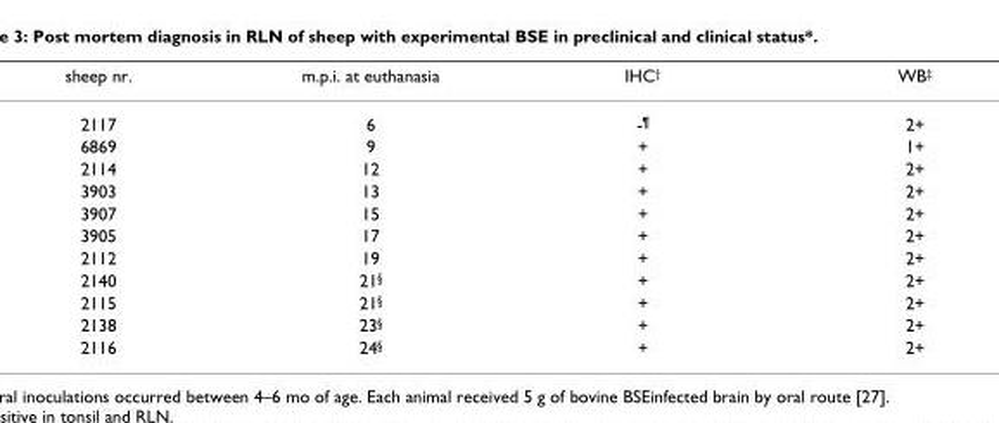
<table><thead><tr><td>sheep nr.</td><td>m.p.i. at euthanasia</td><td>IHC†</td><td>WB‡</td></tr></thead><tbody><tr><td>2117</td><td>6</td><td>-¶</td><td>2+</td></tr><tr><td>6869</td><td>9</td><td>+</td><td>1+</td></tr><tr><td>2114</td><td>12</td><td>+</td><td>2+</td></tr><tr><td>3903</td><td>13</td><td>+</td><td>2+</td></tr><tr><td>3907</td><td>15</td><td>+</td><td>2+</td></tr><tr><td>3905</td><td>17</td><td>+</td><td>2+</td></tr><tr><td>2112</td><td>19</td><td>+</td><td>2+</td></tr><tr><td>2140</td><td>21§</td><td>+</td><td>2+</td></tr><tr><td>2115</td><td>21§</td><td>+</td><td>2+</td></tr><tr><td>2138</td><td>23§</td><td>+</td><td>2+</td></tr><tr><td>2116</td><td>24§</td><td>+</td><td>2+</td></tr></tbody></table>